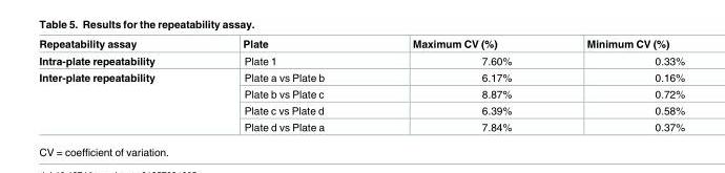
<table><thead><tr><td>Repeatability assay</td><td>Plate</td><td>Maximum CV (%)</td><td>Minimum CV (%)</td></tr></thead><tbody><tr><td>Intra-plate repeatability</td><td>Plate 1</td><td>7.60%</td><td>0.33%</td></tr><tr><td rowspan="4">Inter-plate repeatability</td><td>Plate a vs Plate b</td><td>6.17%</td><td>0.16%</td></tr><tr><td>Plate b vs Plate c</td><td>8.87%</td><td>0.72%</td></tr><tr><td>Plate c vs Plate d</td><td>6.39%</td><td>0.58%</td></tr><tr><td>Plate d vs Plate a</td><td>7.84%</td><td>0.37%</td></tr></tbody></table>